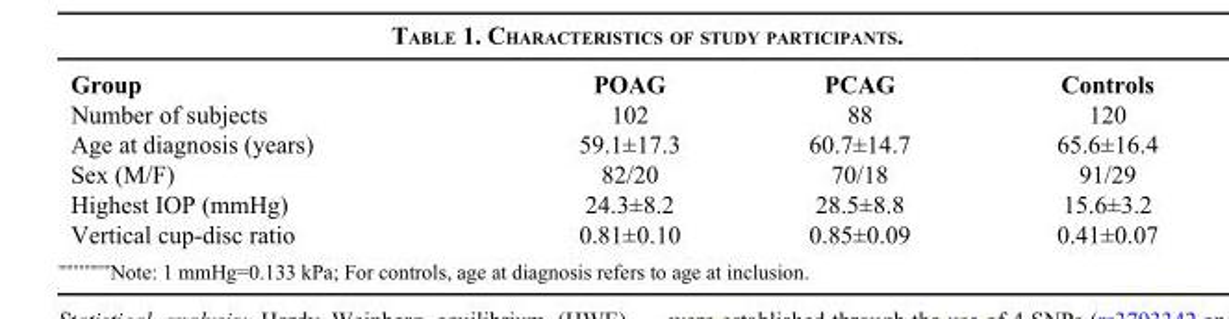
<table><thead><tr><td>Group</td><td>POAG</td><td>PCAG</td><td>Controls</td></tr></thead><tbody><tr><td>Number of subjects</td><td>102</td><td>88</td><td>120</td></tr><tr><td>Age at diagnosis (years)</td><td>59.1±17.3</td><td>60.7±14.7</td><td>65.6±16.4</td></tr><tr><td>Sex (M/F)</td><td>82/20</td><td>70/18</td><td>91/29</td></tr><tr><td>Highest IOP (mmHg)</td><td>24.3±8.2</td><td>28.5±8.8</td><td>15.6±3.2</td></tr><tr><td>Vertical cup-disc ratio</td><td>0.81±0.10</td><td>0.85±0.09</td><td>0.41±0.07</td></tr></tbody></table>